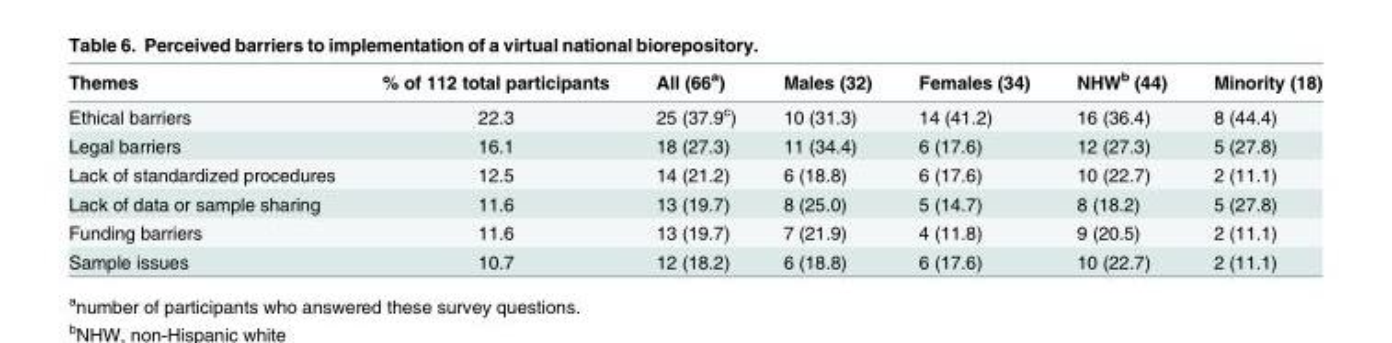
<table><thead><tr><td>Themes</td><td>% of 112 total participants</td><td>All (66<sup>a</sup>)</td><td>Males (32)</td><td>Females (34)</td><td>NHW<sup>b</sup> (44)</td><td>Minority (18)</td></tr></thead><tbody><tr><td>Ethical barriers</td><td>22.3</td><td>25 (37.9<sup>c</sup>)</td><td>10 (31.3)</td><td>14 (41.2)</td><td>16 (36.4)</td><td>8 (44.4)</td></tr><tr><td>Legal barriers</td><td>16.1</td><td>18 (27.3)</td><td>11 (34.4)</td><td>6 (17.6)</td><td>12 (27.3)</td><td>5 (27.8)</td></tr><tr><td>Lack of standardized procedures</td><td>12.5</td><td>14 (21.2)</td><td>6 (18.8)</td><td>6 (17.6)</td><td>10 (22.7)</td><td>2 (11.1)</td></tr><tr><td>Lack of data or sample sharing</td><td>11.6</td><td>13 (19.7)</td><td>8 (25.0)</td><td>5 (14.7)</td><td>8 (18.2)</td><td>5 (27.8)</td></tr><tr><td>Funding barriers</td><td>11.6</td><td>13 (19.7)</td><td>7 (21.9)</td><td>4 (11.8)</td><td>9 (20.5)</td><td>2 (11.1)</td></tr><tr><td>Sample issues</td><td>10.7</td><td>12 (18.2)</td><td>6 (18.8)</td><td>6 (17.6)</td><td>10 (22.7)</td><td>2 (11.1)</td></tr></tbody></table>